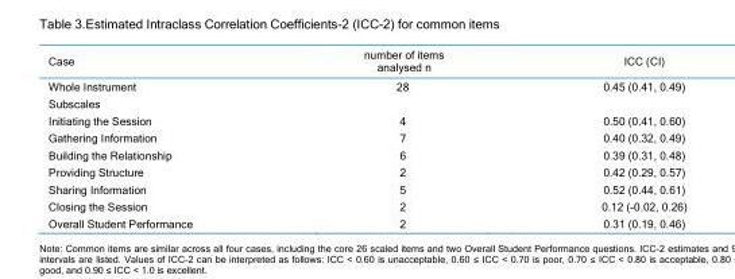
<table><thead><tr><td rowspan="2">Case Whole Instrument</td><td rowspan="2">number of items analysed n 28</td><td rowspan="2">ICC (CI) 0.45 (0.41, 0.49)</td></tr><tr></tr></thead><tbody><tr><td colspan="3">Subscales</td></tr><tr><td>Initiating the Session</td><td>4</td><td>0.50 (0.41, 0.60)</td></tr><tr><td>Gathering Information</td><td>7</td><td>0.40 (0.32, 0.49)</td></tr><tr><td>Building the Relationship</td><td>6</td><td>0.39 (0.31, 0.48)</td></tr><tr><td>Providing Structure</td><td>2</td><td>0.42 (0.29, 0.57)</td></tr><tr><td>Sharing Information</td><td>5</td><td>0.52 (0.44, 0.61)</td></tr><tr><td>Closing the Session</td><td>2</td><td>0.12 (-0.02, 0.26)</td></tr><tr><td>Overall Student Performance</td><td>2</td><td>0.31 (0.19, 0.46)</td></tr></tbody></table>